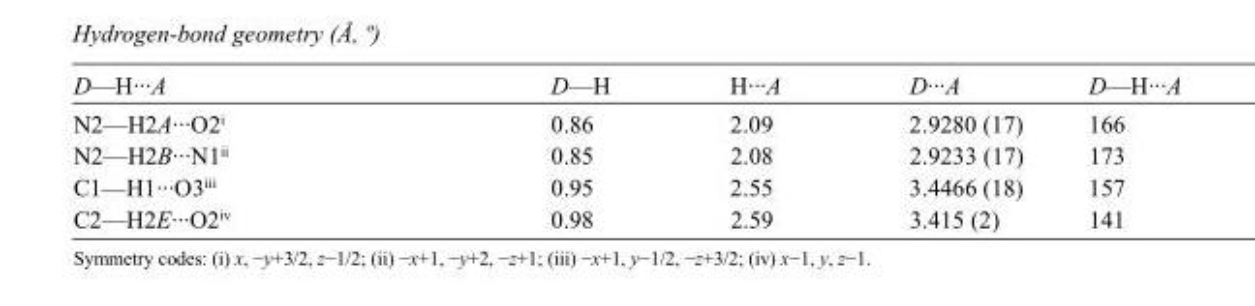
<table><tbody><tr><td>D—H···A</td><td>D—H</td><td>H···A</td><td>D···A</td><td>D—H···A</td></tr><tr><td>N2—H2A···O2<sup>i</sup></td><td>0.86</td><td>2.09</td><td>2.9280 (17)</td><td>166</td></tr><tr><td>N2—H2B···N1<sup>ii</sup></td><td>0.85</td><td>2.08</td><td>2.9233 (17)</td><td>173</td></tr><tr><td>C1—H1···O3<sup>iii</sup></td><td>0.95</td><td>2.55</td><td>3.4466 (18)</td><td>157</td></tr><tr><td>C2—H2E···O2<sup>iv</sup></td><td>0.98</td><td>2.59</td><td>3.415 (2)</td><td>141</td></tr></tbody></table>